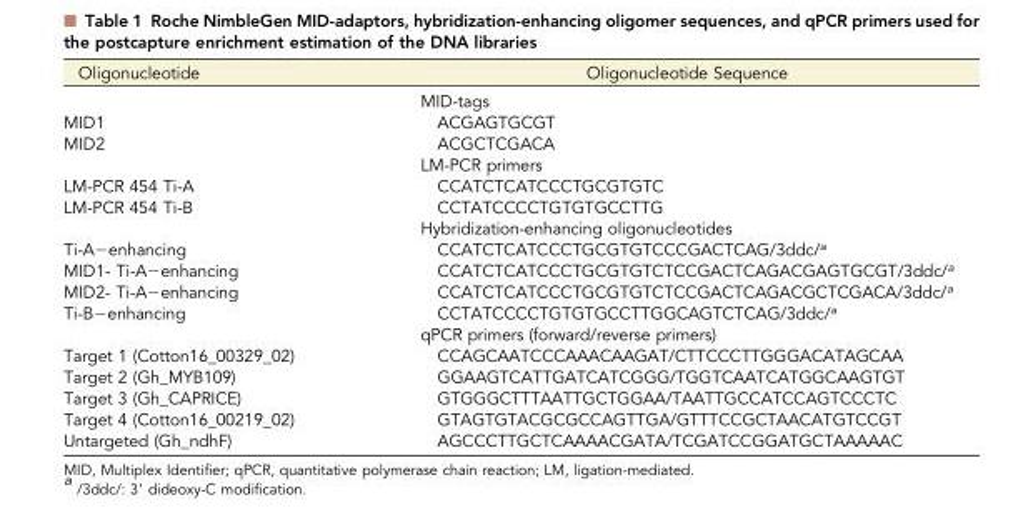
<table><thead><tr><td>Oligonucleotide</td><td>Oligonucleotide Sequence</td></tr></thead><tbody><tr><td></td><td>MID-tags</td></tr><tr><td>MID1</td><td>ACGAGTGCGT</td></tr><tr><td rowspan="2">MID2</td><td>ACGCTCGACA</td></tr><tr><td>LM-PCR primers</td></tr><tr><td>LM-PCR 454 Ti-A</td><td>CCATCTCATCCCTGCGTGTC</td></tr><tr><td rowspan="2">LM-PCR 454 Ti-B</td><td>CCTATCCCCTGTGTGCCTTG</td></tr><tr><td>Hybridization-enhancing oligonucleotides</td></tr><tr><td>Ti-A−enhancing</td><td>CCATCTCATCCCTGCGTGTCCCGACTCAG/3ddc/<sup>a</sup></td></tr><tr><td>MID1- Ti-A−enhancing</td><td>CCATCTCATCCCTGCGTGTCTCCGACTCAGACGAGTGCGT/3ddc/<sup>a</sup></td></tr><tr><td>MID2- Ti-A−enhancing</td><td>CCATCTCATCCCTGCGTGTCTCCGACTCAGACGCTCGACA/3ddc/<sup>a</sup></td></tr><tr><td rowspan="2">Ti-B−enhancing</td><td>CCTATCCCCTGTGTGCCTTGGCAGTCTCAG/3ddc/<sup>a</sup></td></tr><tr><td>qPCR primers (forward/reverse primers)</td></tr><tr><td>Target 1 (Cotton16_00329_02)</td><td>CCAGCAATCCCAAACAAGAT/CTTCCCTTGGGACATAGCAA</td></tr><tr><td>Target 2 (Gh_MYB109)</td><td>GGAAGTCATTGATCATCGGG/TGGTCAATCATGGCAAGTGT</td></tr><tr><td>Target 3 (Gh_CAPRICE)</td><td>GTGGGCTTTAATTGCTGGAA/TAATTGCCATCCAGTCCCTC</td></tr><tr><td>Target 4 (Cotton16_00219_02)</td><td>GTAGTGTACGCGCCAGTTGA/GTTTCCGCTAACATGTCCGT</td></tr><tr><td>Untargeted (Gh_ndhF)</td><td>AGCCCTTGCTCAAAACGATA/TCGATCCGGATGCTAAAAAC</td></tr></tbody></table>